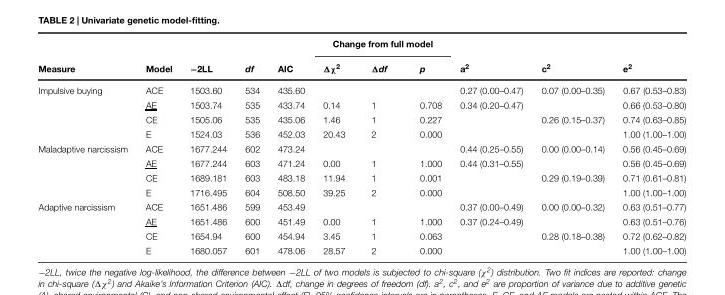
<table><thead><tr><td rowspan="2">Measure</td><td rowspan="2">Model</td><td rowspan="2">−2LL</td><td rowspan="2">df</td><td rowspan="2">AIC</td><td colspan="3">Change from full model</td><td rowspan="2">a<sup>2</sup></td><td rowspan="2">c<sup>2</sup></td><td rowspan="2">e<sup>2</sup></td></tr><tr><td>Δχ<sup>2</sup></td><td>Δdf</td><td>p</td></tr></thead><tbody><tr><td rowspan="4">Impulsive buying</td><td>ACE</td><td>1503.60</td><td>534</td><td>435.60</td><td></td><td></td><td></td><td>0.27 (0.00–0.47)</td><td>0.07 (0.00–0.35)</td><td>0.67 (0.53–0.83)</td></tr><tr><td>AE</td><td>1503.74</td><td>535</td><td>433.74</td><td>0.14</td><td>1</td><td>0.708</td><td>0.34 (0.20–0.47)</td><td></td><td>0.66 (0.53–0.80)</td></tr><tr><td>CE</td><td>1505.06</td><td>535</td><td>435.06</td><td>1.46</td><td>1</td><td>0.227</td><td></td><td>0.26 (0.15–0.37)</td><td>0.74 (0.63–0.85)</td></tr><tr><td>E</td><td>1524.03</td><td>536</td><td>452.03</td><td>20.43</td><td>2</td><td>0.000</td><td></td><td></td><td>1.00 (1.00–1.00)</td></tr><tr><td rowspan="4">Maladaptive narcissism</td><td>ACE</td><td>1677.244</td><td>602</td><td>473.24</td><td></td><td></td><td></td><td>0.44 (0.25–0.55)</td><td>0.00 (0.00–0.14)</td><td>0.56 (0.45–0.69)</td></tr><tr><td>AE</td><td>1677.244</td><td>603</td><td>471.24</td><td>0.00</td><td>1</td><td>1.000</td><td>0.44 (0.31–0.55)</td><td></td><td>0.56 (0.45–0.69)</td></tr><tr><td>CE</td><td>1689.181</td><td>603</td><td>483.18</td><td>11.94</td><td>1</td><td>0.001</td><td></td><td>0.29 (0.19–0.39)</td><td>0.71 (0.61–0.81)</td></tr><tr><td>E</td><td>1716.495</td><td>604</td><td>508.50</td><td>39.25</td><td>2</td><td>0.000</td><td></td><td></td><td>1.00 (1.00–1.00)</td></tr><tr><td rowspan="4">Adaptive narcissism</td><td>ACE</td><td>1651.486</td><td>599</td><td>453.49</td><td></td><td></td><td></td><td>0.37 (0.00–0.49)</td><td>0.00 (0.00–0.32)</td><td>0.63 (0.51–0.77)</td></tr><tr><td>AE</td><td>1651.486</td><td>600</td><td>451.49</td><td>0.00</td><td>1</td><td>1.000</td><td>0.37 (0.24–0.49)</td><td></td><td>0.63 (0.51–0.76)</td></tr><tr><td>CE</td><td>1654.94</td><td>600</td><td>454.94</td><td>3.45</td><td>1</td><td>0.063</td><td></td><td>0.28 (0.18–0.38)</td><td>0.72 (0.62–0.82)</td></tr><tr><td>E</td><td>1680.057</td><td>601</td><td>478.06</td><td>28.57</td><td>2</td><td>0.000</td><td></td><td></td><td>1.00 (1.00–1.00)</td></tr></tbody></table>